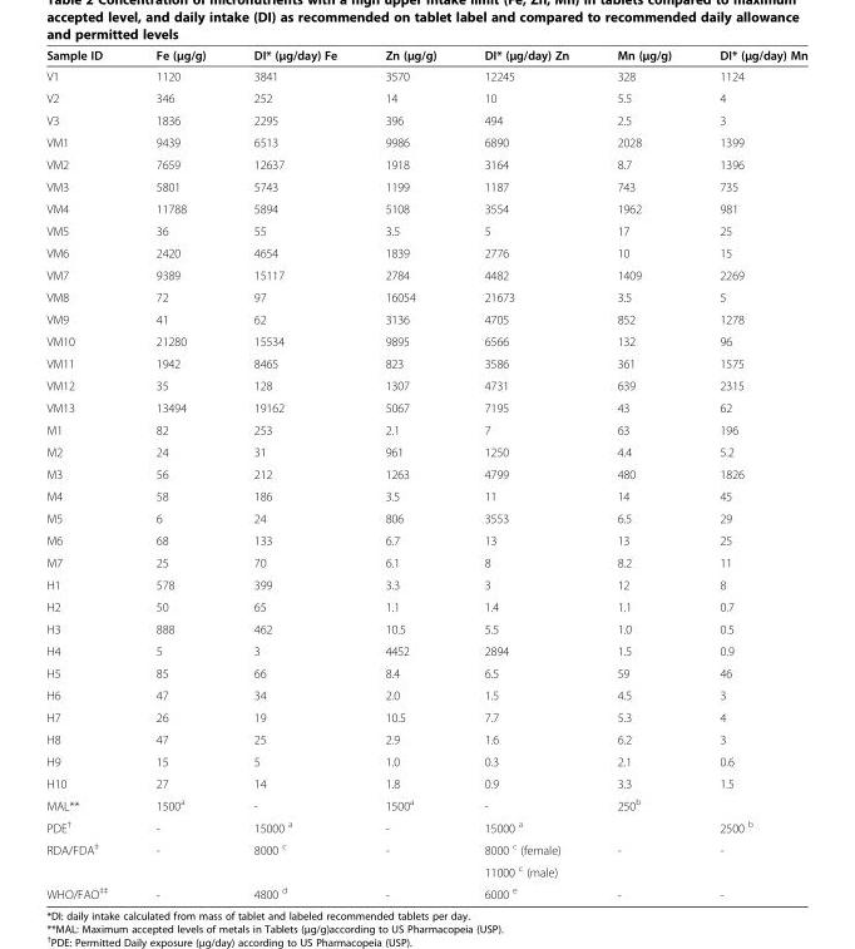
<table><thead><tr><td>Sample ID</td><td>Fe (μg/g)</td><td>DI* (μg/day) Fe</td><td>Zn (μg/g)</td><td>DI* (μg/day) Zn</td><td>Mn (μg/g)</td><td>DI* (μg/day) Mn</td></tr></thead><tbody><tr><td>V1</td><td>1120</td><td>3841</td><td>3570</td><td>12245</td><td>328</td><td>1124</td></tr><tr><td>V2</td><td>346</td><td>252</td><td>14</td><td>10</td><td>5.5</td><td>4</td></tr><tr><td>V3</td><td>1836</td><td>2295</td><td>396</td><td>494</td><td>2.5</td><td>3</td></tr><tr><td>VM1</td><td>9439</td><td>6513</td><td>9986</td><td>6890</td><td>2028</td><td>1399</td></tr><tr><td>VM2</td><td>7659</td><td>12637</td><td>1918</td><td>3164</td><td>8.7</td><td>1396</td></tr><tr><td>VM3</td><td>5801</td><td>5743</td><td>1199</td><td>1187</td><td>743</td><td>735</td></tr><tr><td>VM4</td><td>11788</td><td>5894</td><td>5108</td><td>3554</td><td>1962</td><td>981</td></tr><tr><td>VM5</td><td>36</td><td>55</td><td>3.5</td><td>5</td><td>17</td><td>25</td></tr><tr><td>VM6</td><td>2420</td><td>4654</td><td>1839</td><td>2776</td><td>10</td><td>15</td></tr><tr><td>VM7</td><td>9389</td><td>15117</td><td>2784</td><td>4482</td><td>1409</td><td>2269</td></tr><tr><td>VM8</td><td>72</td><td>97</td><td>16054</td><td>21673</td><td>3.5</td><td>5</td></tr><tr><td>VM9</td><td>41</td><td>62</td><td>3136</td><td>4705</td><td>852</td><td>1278</td></tr><tr><td>VM10</td><td>21280</td><td>15534</td><td>9895</td><td>6566</td><td>132</td><td>96</td></tr><tr><td>VM11</td><td>1942</td><td>8465</td><td>823</td><td>3586</td><td>361</td><td>1575</td></tr><tr><td>VM12</td><td>35</td><td>128</td><td>1307</td><td>4731</td><td>639</td><td>2315</td></tr><tr><td>VM13</td><td>13494</td><td>19162</td><td>5067</td><td>7195</td><td>43</td><td>62</td></tr><tr><td>M1</td><td>82</td><td>253</td><td>2.1</td><td>7</td><td>63</td><td>196</td></tr><tr><td>M2</td><td>24</td><td>31</td><td>961</td><td>1250</td><td>4.4</td><td>5.2</td></tr><tr><td>M3</td><td>56</td><td>212</td><td>1263</td><td>4799</td><td>480</td><td>1826</td></tr><tr><td>M4</td><td>58</td><td>186</td><td>3.5</td><td>11</td><td>14</td><td>45</td></tr><tr><td>M5</td><td>6</td><td>24</td><td>806</td><td>3553</td><td>6.5</td><td>29</td></tr><tr><td>M6</td><td>68</td><td>133</td><td>6.7</td><td>13</td><td>13</td><td>25</td></tr><tr><td>M7</td><td>25</td><td>70</td><td>6.1</td><td>8</td><td>8.2</td><td>11</td></tr><tr><td>H1</td><td>578</td><td>399</td><td>3.3</td><td>3</td><td>12</td><td>8</td></tr><tr><td>H2</td><td>50</td><td>65</td><td>1.1</td><td>1.4</td><td>1.1</td><td>0.7</td></tr><tr><td>H3</td><td>888</td><td>462</td><td>10.5</td><td>5.5</td><td>1.0</td><td>0.5</td></tr><tr><td>H4</td><td>5</td><td>3</td><td>4452</td><td>2894</td><td>1.5</td><td>0.9</td></tr><tr><td>H5</td><td>85</td><td>66</td><td>8.4</td><td>6.5</td><td>59</td><td>46</td></tr><tr><td>H6</td><td>47</td><td>34</td><td>2.0</td><td>1.5</td><td>4.5</td><td>3</td></tr><tr><td>H7</td><td>26</td><td>19</td><td>10.5</td><td>7.7</td><td>5.3</td><td>4</td></tr><tr><td>H8</td><td>47</td><td>25</td><td>2.9</td><td>1.6</td><td>6.2</td><td>3</td></tr><tr><td>H9</td><td>15</td><td>5</td><td>1.0</td><td>0.3</td><td>2.1</td><td>0.6</td></tr><tr><td>H10</td><td>27</td><td>14</td><td>1.8</td><td>0.9</td><td>3.3</td><td>1.5</td></tr><tr><td>MAL**</td><td>1500<sup>a</sup></td><td>-</td><td>1500<sup>a</sup></td><td>-</td><td>250<sup>b</sup></td><td></td></tr><tr><td>PDE<sup>†</sup></td><td>-</td><td>15000 <sup>a</sup></td><td>-</td><td>15000 <sup>a</sup></td><td></td><td>2500 <sup>b</sup></td></tr><tr><td rowspan="2">RDA/FDA<sup>‡</sup></td><td rowspan="2">-</td><td rowspan="2">8000 <sup>c</sup></td><td rowspan="2">-</td><td>8000 <sup>c</sup> (female)</td><td rowspan="2">-</td><td rowspan="2">-</td></tr><tr><td>11000 <sup>c</sup> (male)</td></tr><tr><td>WHO/FAO<sup>‡‡</sup></td><td>-</td><td>4800 <sup>d</sup></td><td>-</td><td>6000 <sup>e</sup></td><td>-</td><td>-</td></tr></tbody></table>